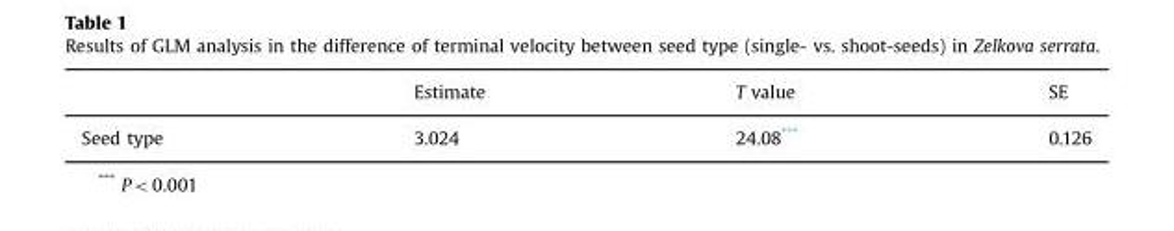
<table><thead><tr><td></td><td>Estimate</td><td>T value</td><td>SE</td></tr></thead><tbody><tr><td>Seed type</td><td>3.024</td><td>24.08***</td><td>0.126</td></tr></tbody></table>